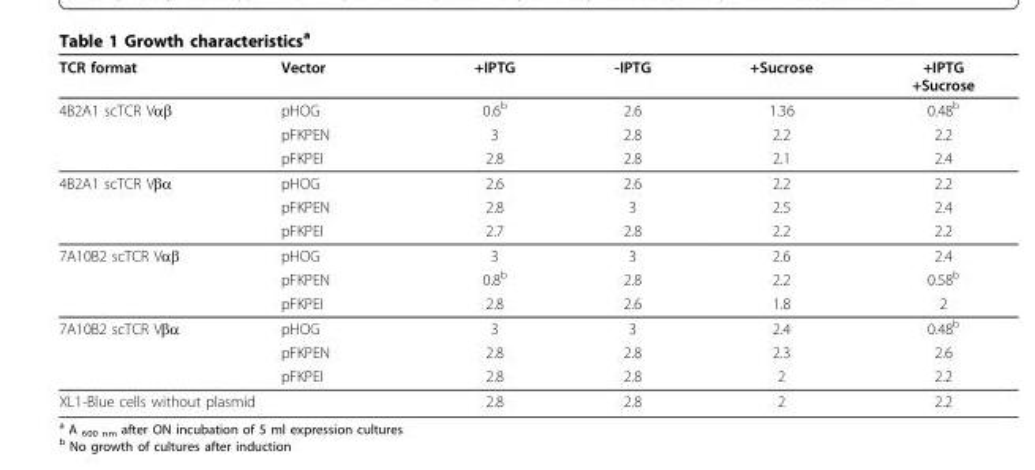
<table><thead><tr><td>TCR format</td><td>Vector</td><td>+IPTG</td><td>-IPTG</td><td>+Sucrose</td><td>+IPTG +Sucrose</td></tr></thead><tbody><tr><td rowspan="3">4B2A1 scTCR Vαβ</td><td>pHOG</td><td>0.6<sup>b</sup></td><td>2.6</td><td>1.36</td><td>0.48<sup>b</sup></td></tr><tr><td>pFKPEN</td><td>3</td><td>2.8</td><td>2.2</td><td>2.2</td></tr><tr><td>pFKPEI</td><td>2.8</td><td>2.8</td><td>2.1</td><td>2.4</td></tr><tr><td rowspan="3">4B2A1 scTCR Vβα</td><td>pHOG</td><td>2.6</td><td>2.6</td><td>2.2</td><td>2.2</td></tr><tr><td>pFKPEN</td><td>2.8</td><td>3</td><td>2.5</td><td>2.4</td></tr><tr><td>pFKPEI</td><td>2.7</td><td>2.8</td><td>2.2</td><td>2.2</td></tr><tr><td rowspan="3">7A10B2 scTCR Vαβ</td><td>pHOG</td><td>3</td><td>3</td><td>2.6</td><td>2.4</td></tr><tr><td>pFKPEN</td><td>0.8<sup>b</sup></td><td>2.8</td><td>2.2</td><td>0.58<sup>b</sup></td></tr><tr><td>pFKPEI</td><td>2.8</td><td>2.6</td><td>1.8</td><td>2</td></tr><tr><td rowspan="3">7A10B2 scTCR Vβα</td><td>pHOG</td><td>3</td><td>3</td><td>2.4</td><td>0.48<sup>b</sup></td></tr><tr><td>pFKPEN</td><td>2.8</td><td>2.8</td><td>2.3</td><td>2.6</td></tr><tr><td>pFKPEI</td><td>2.8</td><td>2.8</td><td>2</td><td>2.2</td></tr><tr><td colspan="2">XL1-Blue cells without plasmid</td><td>2.8</td><td>2.8</td><td>2</td><td>2.2</td></tr></tbody></table>